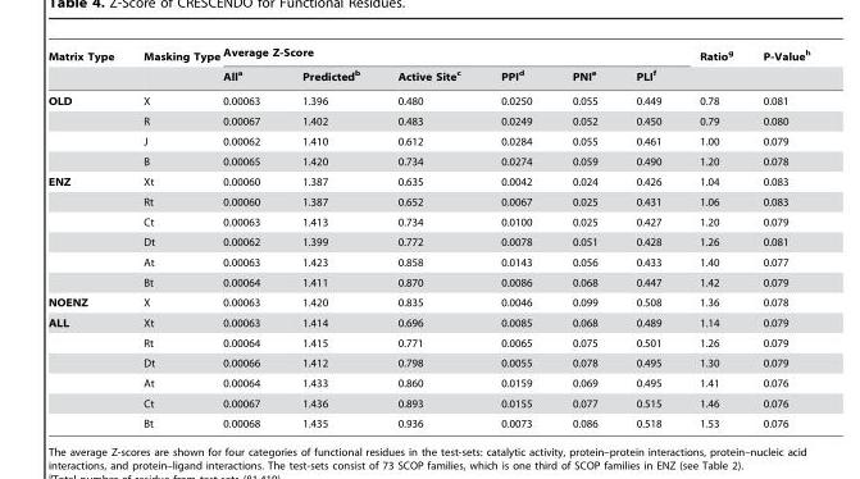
<table><thead><tr><td rowspan="2">Matrix Type</td><td rowspan="2">Masking Type</td><td colspan="6">Average Z-Score</td><td rowspan="2">Ratio<sup>g</sup></td><td rowspan="2">P-Value<sup>h</sup></td></tr><tr><td>All<sup>a</sup></td><td>Predicted<sup>b</sup></td><td>Active Site<sup>c</sup></td><td>PPI<sup>d</sup></td><td>PNI<sup>e</sup></td><td>PLI<sup>f</sup></td></tr></thead><tbody><tr><td rowspan="4">OLD</td><td>X</td><td>0.00063</td><td>1.396</td><td>0.480</td><td>0.0250</td><td>0.055</td><td>0.449</td><td>0.78</td><td>0.081</td></tr><tr><td>R</td><td>0.00067</td><td>1.402</td><td>0.483</td><td>0.0249</td><td>0.052</td><td>0.450</td><td>0.79</td><td>0.080</td></tr><tr><td>J</td><td>0.00062</td><td>1.410</td><td>0.612</td><td>0.0284</td><td>0.055</td><td>0.461</td><td>1.00</td><td>0.079</td></tr><tr><td>B</td><td>0.00065</td><td>1.420</td><td>0.734</td><td>0.0274</td><td>0.059</td><td>0.490</td><td>1.20</td><td>0.078</td></tr><tr><td rowspan="6">ENZ</td><td>Xt</td><td>0.00060</td><td>1.387</td><td>0.635</td><td>0.0042</td><td>0.024</td><td>0.426</td><td>1.04</td><td>0.083</td></tr><tr><td>Rt</td><td>0.00060</td><td>1.387</td><td>0.652</td><td>0.0067</td><td>0.025</td><td>0.431</td><td>1.06</td><td>0.083</td></tr><tr><td>Ct</td><td>0.00063</td><td>1.413</td><td>0.734</td><td>0.0100</td><td>0.025</td><td>0.427</td><td>1.20</td><td>0.079</td></tr><tr><td>Dt</td><td>0.00062</td><td>1.399</td><td>0.772</td><td>0.0078</td><td>0.051</td><td>0.428</td><td>1.26</td><td>0.081</td></tr><tr><td>At</td><td>0.00063</td><td>1.423</td><td>0.858</td><td>0.0143</td><td>0.056</td><td>0.433</td><td>1.40</td><td>0.077</td></tr><tr><td>Bt</td><td>0.00064</td><td>1.411</td><td>0.870</td><td>0.0086</td><td>0.068</td><td>0.447</td><td>1.42</td><td>0.079</td></tr><tr><td>NOENZ</td><td>X</td><td>0.00063</td><td>1.420</td><td>0.835</td><td>0.0046</td><td>0.099</td><td>0.508</td><td>1.36</td><td>0.078</td></tr><tr><td rowspan="6">ALL</td><td>Xt</td><td>0.00063</td><td>1.414</td><td>0.696</td><td>0.0085</td><td>0.068</td><td>0.489</td><td>1.14</td><td>0.079</td></tr><tr><td>Rt</td><td>0.00064</td><td>1.415</td><td>0.771</td><td>0.0065</td><td>0.075</td><td>0.501</td><td>1.26</td><td>0.079</td></tr><tr><td>Dt</td><td>0.00066</td><td>1.412</td><td>0.798</td><td>0.0055</td><td>0.078</td><td>0.495</td><td>1.30</td><td>0.079</td></tr><tr><td>At</td><td>0.00064</td><td>1.433</td><td>0.860</td><td>0.0159</td><td>0.069</td><td>0.495</td><td>1.41</td><td>0.076</td></tr><tr><td>Ct</td><td>0.00067</td><td>1.436</td><td>0.893</td><td>0.0155</td><td>0.077</td><td>0.515</td><td>1.46</td><td>0.076</td></tr><tr><td>Bt</td><td>0.00068</td><td>1.435</td><td>0.936</td><td>0.0073</td><td>0.086</td><td>0.518</td><td>1.53</td><td>0.076</td></tr></tbody></table>